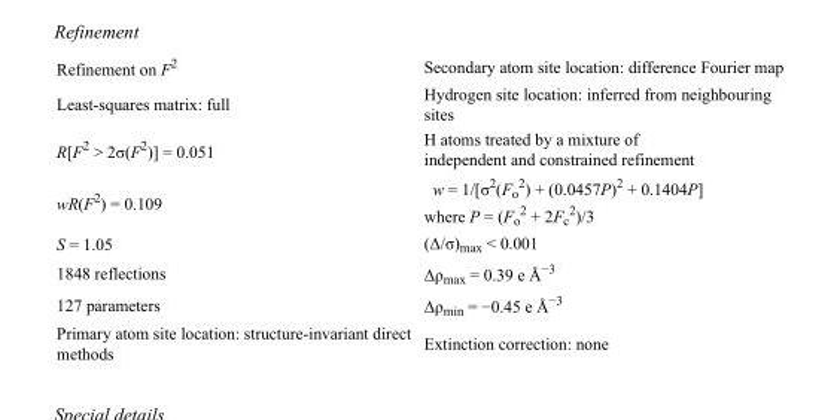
<table><tbody><tr><td>Refinement on F<sup>2</sup></td><td>Secondary atom site location: difference Fourier map</td></tr><tr><td>Least-squares matrix: full</td><td>Hydrogen site location: inferred from neighbouring sites</td></tr><tr><td>R[F<sup>2</sup> &gt; 2σ(F<sup>2</sup>)] = 0.051</td><td>H atoms treated by a mixture of independent and constrained refinement</td></tr><tr><td>wR(F<sup>2</sup>) = 0.109</td><td>w = 1/[σ<sup>2</sup>(F<sub>o</sub> <sup>2</sup>) + (0.0457P)<sup>2</sup> + 0.1404P] where P = (F<sub>o</sub> <sup>2</sup> + 2F<sub>c</sub> <sup>2</sup>)/3</td></tr><tr><td>S = 1.05</td><td>(Δ/σ)<sub>max</sub> &lt; 0.001</td></tr><tr><td>1848 reflections</td><td>Δρ<sub>max</sub> = 0.39 e Å<sup>−3</sup></td></tr><tr><td>127 parameters</td><td>Δρ<sub>min</sub> = −0.45 e Å<sup>−3</sup></td></tr><tr><td>Primary atom site location: structure-invariant direct methods</td><td>Extinction correction: none</td></tr></tbody></table>